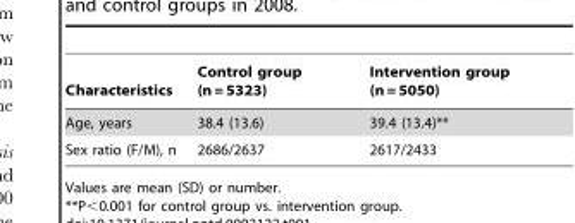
<table><thead><tr><td>Characteristics</td><td>Control group (n = 5323)</td><td>Intervention group (n = 5050)</td></tr></thead><tbody><tr><td>Age, years</td><td>38.4 (13.6)</td><td>39.4 (13.4)**</td></tr><tr><td>Sex ratio (F/M), n</td><td>2686/2637</td><td>2617/2433</td></tr></tbody></table>